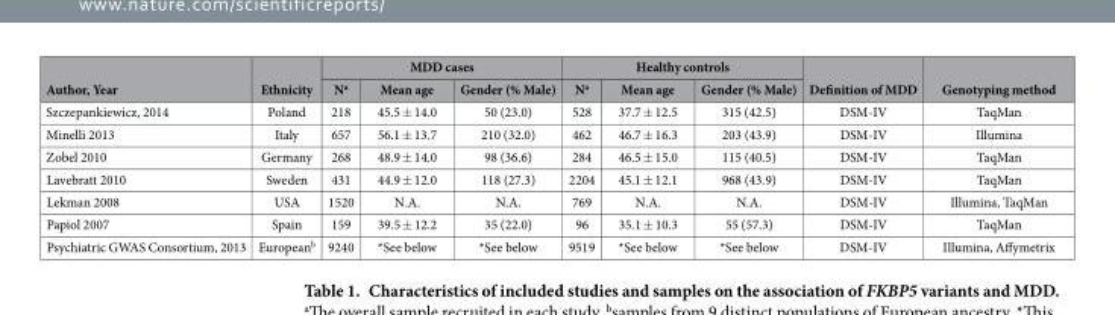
<table><thead><tr><td rowspan="2">Author, Year</td><td rowspan="2">Ethnicity</td><td colspan="3">MDD cases</td><td colspan="3">Healthy controls</td><td rowspan="2">Definition of MDD</td><td rowspan="2">Genotyping method</td></tr><tr><td>N<sup>a</sup></td><td>Mean age</td><td>Gender (% Male)</td><td>N<sup>a</sup></td><td>Mean age</td><td>Gender (% Male)</td></tr></thead><tbody><tr><td>Szczepankiewicz, 2014</td><td>Poland</td><td>218</td><td>45.5 ± 14.0</td><td>50 (23.0)</td><td>528</td><td>37.7 ± 12.5</td><td>315 (42.5)</td><td>DSM-IV</td><td>TaqMan</td></tr><tr><td>Minelli 2013</td><td>Italy</td><td>657</td><td>56.1 ± 13.7</td><td>210 (32.0)</td><td>462</td><td>46.7 ± 16.3</td><td>203 (43.9)</td><td>DSM-IV</td><td>Illumina</td></tr><tr><td>Zobel 2010</td><td>Germany</td><td>268</td><td>48.9 ± 14.0</td><td>98 (36.6)</td><td>284</td><td>46.5 ± 15.0</td><td>115 (40.5)</td><td>DSM-IV</td><td>TaqMan</td></tr><tr><td>Lavebratt 2010</td><td>Sweden</td><td>431</td><td>44.9 ± 12.0</td><td>118 (27.3)</td><td>2204</td><td>45.1 ± 12.1</td><td>968 (43.9)</td><td>DSM-IV</td><td>TaqMan</td></tr><tr><td>Lekman 2008</td><td>USA</td><td>1520</td><td>N.A.</td><td>N.A.</td><td>769</td><td>N.A.</td><td>N.A.</td><td>DSM-IV</td><td>Illumina, TaqMan</td></tr><tr><td>Papiol 2007</td><td>Spain</td><td>159</td><td>39.5 ± 12.2</td><td>35 (22.0)</td><td>96</td><td>35.1 ± 10.3</td><td>55 (57.3)</td><td>DSM-IV</td><td>TaqMan</td></tr><tr><td>Psychiatric GWAS Consortium, 2013</td><td>European<sup>b</sup></td><td>9240</td><td>*See below</td><td>*See below</td><td>9519</td><td>*See below</td><td>*See below</td><td>DSM-IV</td><td>Illumina, Affymetrix</td></tr></tbody></table>